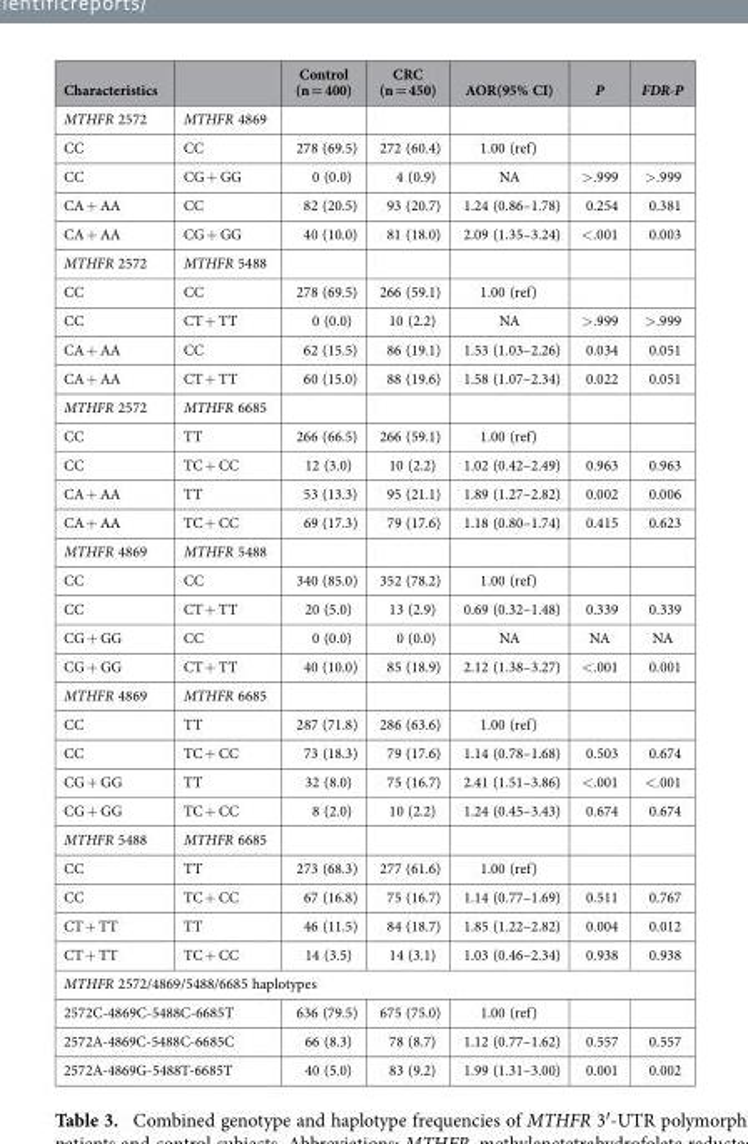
<table><thead><tr><td>Characteristics</td><td></td><td>Control (n = 400)</td><td>CRC (n = 450)</td><td>AOR(95% CI)</td><td>P</td><td>FDR-P</td></tr></thead><tbody><tr><td>MTHFR 2572</td><td>MTHFR 4869</td><td></td><td></td><td></td><td></td><td></td></tr><tr><td>CC</td><td>CC</td><td>278 (69.5)</td><td>272 (60.4)</td><td>1.00 (ref)</td><td></td><td></td></tr><tr><td>CC</td><td>CG + GG</td><td>0 (0.0)</td><td>4 (0.9)</td><td>NA</td><td>&gt;.999</td><td>&gt;.999</td></tr><tr><td>CA + AA</td><td>CC</td><td>82 (20.5)</td><td>93 (20.7)</td><td>1.24 (0.86–1.78)</td><td>0.254</td><td>0.381</td></tr><tr><td>CA + AA</td><td>CG + GG</td><td>40 (10.0)</td><td>81 (18.0)</td><td>2.09 (1.35–3.24)</td><td>&lt;.001</td><td>0.003</td></tr><tr><td>MTHFR 2572</td><td>MTHFR 5488</td><td></td><td></td><td></td><td></td><td></td></tr><tr><td>CC</td><td>CC</td><td>278 (69.5)</td><td>266 (59.1)</td><td>1.00 (ref)</td><td></td><td></td></tr><tr><td>CC</td><td>CT + TT</td><td>0 (0.0)</td><td>10 (2.2)</td><td>NA</td><td>&gt;.999</td><td>&gt;.999</td></tr><tr><td>CA + AA</td><td>CC</td><td>62 (15.5)</td><td>86 (19.1)</td><td>1.53 (1.03–2.26)</td><td>0.034</td><td>0.051</td></tr><tr><td>CA + AA</td><td>CT + TT</td><td>60 (15.0)</td><td>88 (19.6)</td><td>1.58 (1.07–2.34)</td><td>0.022</td><td>0.051</td></tr><tr><td>MTHFR 2572</td><td>MTHFR 6685</td><td></td><td></td><td></td><td></td><td></td></tr><tr><td>CC</td><td>TT</td><td>266 (66.5)</td><td>266 (59.1)</td><td>1.00 (ref)</td><td></td><td></td></tr><tr><td>CC</td><td>TC + CC</td><td>12 (3.0)</td><td>10 (2.2)</td><td>1.02 (0.42–2.49)</td><td>0.963</td><td>0.963</td></tr><tr><td>CA + AA</td><td>TT</td><td>53 (13.3)</td><td>95 (21.1)</td><td>1.89 (1.27–2.82)</td><td>0.002</td><td>0.006</td></tr><tr><td>CA + AA</td><td>TC + CC</td><td>69 (17.3)</td><td>79 (17.6)</td><td>1.18 (0.80–1.74)</td><td>0.415</td><td>0.623</td></tr><tr><td>MTHFR 4869</td><td>MTHFR 5488</td><td></td><td></td><td></td><td></td><td></td></tr><tr><td>CC</td><td>CC</td><td>340 (85.0)</td><td>352 (78.2)</td><td>1.00 (ref)</td><td></td><td></td></tr><tr><td>CC</td><td>CT + TT</td><td>20 (5.0)</td><td>13 (2.9)</td><td>0.69 (0.32–1.48)</td><td>0.339</td><td>0.339</td></tr><tr><td>CG + GG</td><td>CC</td><td>0 (0.0)</td><td>0 (0.0)</td><td>NA</td><td>NA</td><td>NA</td></tr><tr><td>CG + GG</td><td>CT + TT</td><td>40 (10.0)</td><td>85 (18.9)</td><td>2.12 (1.38–3.27)</td><td>&lt;.001</td><td>0.001</td></tr><tr><td>MTHFR 4869</td><td>MTHFR 6685</td><td></td><td></td><td></td><td></td><td></td></tr><tr><td>CC</td><td>TT</td><td>287 (71.8)</td><td>286 (63.6)</td><td>1.00 (ref)</td><td></td><td></td></tr><tr><td>CC</td><td>TC + CC</td><td>73 (18.3)</td><td>79 (17.6)</td><td>1.14 (0.78–1.68)</td><td>0.503</td><td>0.674</td></tr><tr><td>CG + GG</td><td>TT</td><td>32 (8.0)</td><td>75 (16.7)</td><td>2.41 (1.51–3.86)</td><td>&lt;.001</td><td>&lt;.001</td></tr><tr><td>CG + GG</td><td>TC + CC</td><td>8 (2.0)</td><td>10 (2.2)</td><td>1.24 (0.45–3.43)</td><td>0.674</td><td>0.674</td></tr><tr><td>MTHFR 5488</td><td>MTHFR 6685</td><td></td><td></td><td></td><td></td><td></td></tr><tr><td>CC</td><td>TT</td><td>273 (68.3)</td><td>277 (61.6)</td><td>1.00 (ref)</td><td></td><td></td></tr><tr><td>CC</td><td>TC + CC</td><td>67 (16.8)</td><td>75 (16.7)</td><td>1.14 (0.77–1.69)</td><td>0.511</td><td>0.767</td></tr><tr><td>CT + TT</td><td>TT</td><td>46 (11.5)</td><td>84 (18.7)</td><td>1.85 (1.22–2.82)</td><td>0.004</td><td>0.012</td></tr><tr><td>CT + TT</td><td>TC + CC</td><td>14 (3.5)</td><td>14 (3.1)</td><td>1.03 (0.46–2.34)</td><td>0.938</td><td>0.938</td></tr><tr><td colspan="7">MTHFR 2572/4869/5488/6685 haplotypes</td></tr><tr><td colspan="2">2572C-4869C-5488C-6685T</td><td>636 (79.5)</td><td>675 (75.0)</td><td>1.00 (ref)</td><td></td><td></td></tr><tr><td colspan="2">2572A-4869C-5488C-6685C</td><td>66 (8.3)</td><td>78 (8.7)</td><td>1.12 (0.77–1.62)</td><td>0.557</td><td>0.557</td></tr><tr><td colspan="2">2572A-4869G-5488T-6685T</td><td>40 (5.0)</td><td>83 (9.2)</td><td>1.99 (1.31–3.00)</td><td>0.001</td><td>0.002</td></tr></tbody></table>